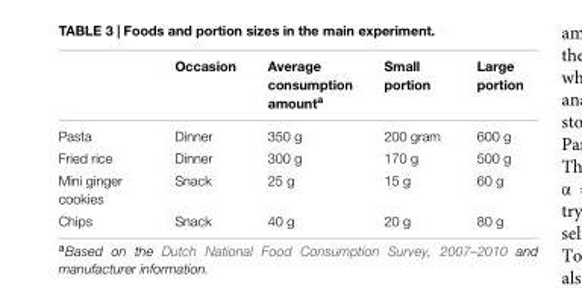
<table><thead><tr><td></td><td>Occasion</td><td>Average consumption amount<sup>a</sup></td><td>Small portion</td><td>Large portion</td></tr></thead><tbody><tr><td>Pasta</td><td>Dinner</td><td>350 g</td><td>200 gram</td><td>600 g</td></tr><tr><td>Fried rice</td><td>Dinner</td><td>300 g</td><td>170 g</td><td>500 g</td></tr><tr><td>Mini ginger cookies</td><td>Snack</td><td>25 g</td><td>15 g</td><td>60 g</td></tr><tr><td>Chips</td><td>Snack</td><td>40 g</td><td>20 g</td><td>80 g</td></tr></tbody></table>